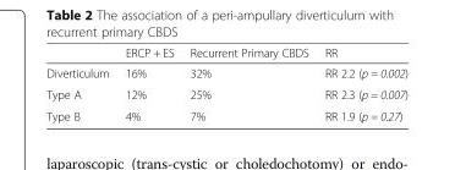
<table><thead><tr><td></td><td>ERCP + ES</td><td>Recurrent Primary CBDS</td><td>RR</td></tr></thead><tbody><tr><td>Diverticulum</td><td>16%</td><td>32%</td><td>RR 2.2 (p = 0.002)</td></tr><tr><td>Type A</td><td>12%</td><td>25%</td><td>RR 2.3 (p = 0.007)</td></tr><tr><td>Type B</td><td>4%</td><td>7%</td><td>RR 1.9 (p = 0.27)</td></tr></tbody></table>